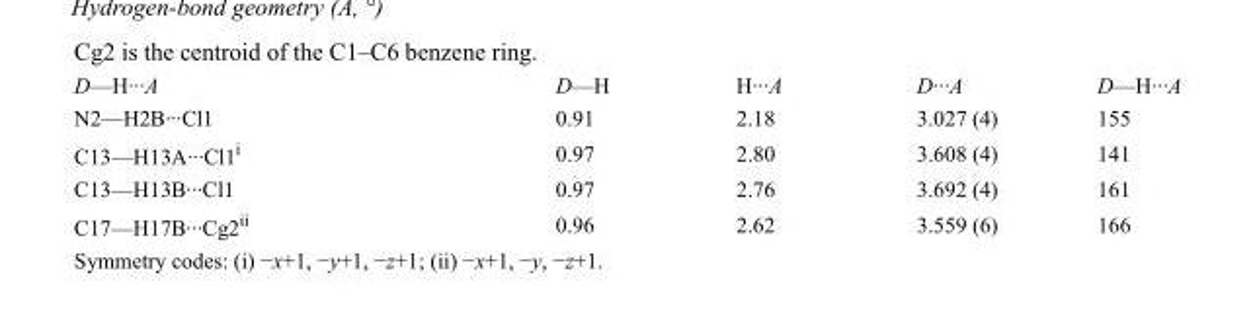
<table><tbody><tr><td>D—H···A</td><td>D—H</td><td>H···A</td><td>D···A</td><td>D—H···A</td></tr><tr><td>N2—H2B···Cl1</td><td>0.91</td><td>2.18</td><td>3.027 (4)</td><td>155</td></tr><tr><td>C13—H13A···Cl1<sup>i</sup></td><td>0.97</td><td>2.80</td><td>3.608 (4)</td><td>141</td></tr><tr><td>C13—H13B···Cl1</td><td>0.97</td><td>2.76</td><td>3.692 (4)</td><td>161</td></tr><tr><td>C17—H17B···Cg2<sup>ii</sup></td><td>0.96</td><td>2.62</td><td>3.559 (6)</td><td>166</td></tr></tbody></table>